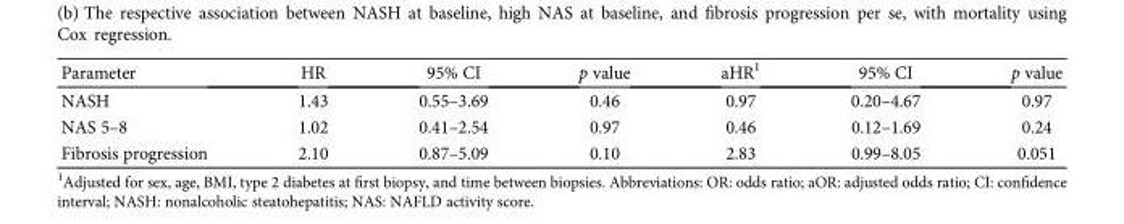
<table><thead><tr><td>Parameter</td><td>HR</td><td>95% CI</td><td>p value</td><td>aHR<sup>1</sup></td><td>95% CI</td><td>p value</td></tr></thead><tbody><tr><td>NASH</td><td>1.43</td><td>0.55–3.69</td><td>0.46</td><td>0.97</td><td>0.20–4.67</td><td>0.97</td></tr><tr><td>NAS 5–8</td><td>1.02</td><td>0.41–2.54</td><td>0.97</td><td>0.46</td><td>0.12–1.69</td><td>0.24</td></tr><tr><td>Fibrosis progression</td><td>2.10</td><td>0.87–5.09</td><td>0.10</td><td>2.83</td><td>0.99–8.05</td><td>0.051</td></tr></tbody></table>